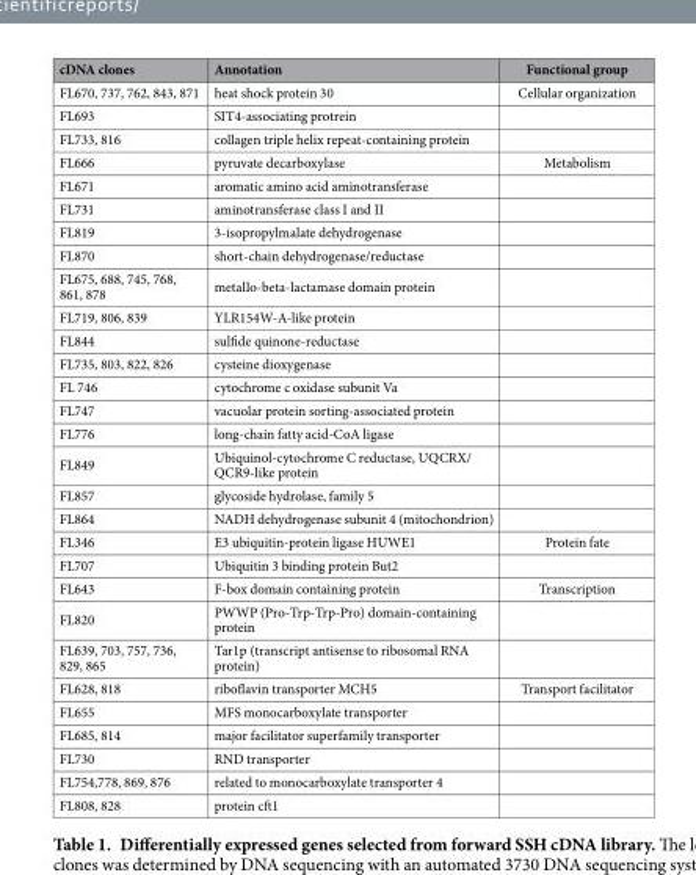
<table><thead><tr><td>cDNA clones</td><td>Annotation</td><td>Functional group</td></tr></thead><tbody><tr><td>FL670, 737, 762, 843, 871</td><td>heat shock protein 30</td><td>Cellular organization</td></tr><tr><td>FL693</td><td>SIT4-associating protrein</td><td></td></tr><tr><td>FL733, 816</td><td>collagen triple helix repeat-containing protein</td><td></td></tr><tr><td>FL666</td><td>pyruvate decarboxylase</td><td>Metabolism</td></tr><tr><td>FL671</td><td>aromatic amino acid aminotransferase</td><td></td></tr><tr><td>FL731</td><td>aminotransferase class I and II</td><td></td></tr><tr><td>FL819</td><td>3-isopropylmalate dehydrogenase</td><td></td></tr><tr><td>FL870</td><td>short-chain dehydrogenase/reductase</td><td></td></tr><tr><td>FL675, 688, 745, 768, 861, 878</td><td>metallo-beta-lactamase domain protein</td><td></td></tr><tr><td>FL719, 806, 839</td><td>YLR154W-A-like protein</td><td></td></tr><tr><td>FL844</td><td>sulfide quinone-reductase</td><td></td></tr><tr><td>FL735, 803, 822, 826</td><td>cysteine dioxygenase</td><td></td></tr><tr><td>FL 746</td><td>cytochrome c oxidase subunit Va</td><td></td></tr><tr><td>FL747</td><td>vacuolar protein sorting-associated protein</td><td></td></tr><tr><td>FL776</td><td>long-chain fatty acid-CoA ligase</td><td></td></tr><tr><td>FL849</td><td>Ubiquinol-cytochrome C reductase, UQCRX/ QCR9-like protein</td><td></td></tr><tr><td>FL857</td><td>glycoside hydrolase, family 5</td><td></td></tr><tr><td>FL864</td><td>NADH dehydrogenase subunit 4 (mitochondrion)</td><td></td></tr><tr><td>FL346</td><td>E3 ubiquitin-protein ligase HUWE1</td><td>Protein fate</td></tr><tr><td>FL707</td><td>Ubiquitin 3 binding protein But2</td><td></td></tr><tr><td>FL643</td><td>F-box domain containing protein</td><td>Transcription</td></tr><tr><td>FL820</td><td>PWWP (Pro-Trp-Trp-Pro) domain-containing protein</td><td></td></tr><tr><td>FL639, 703, 757, 736, 829, 865</td><td>Tar1p (transcript antisense to ribosomal RNA protein)</td><td></td></tr><tr><td>FL628, 818</td><td>riboflavin transporter MCH5</td><td>Transport facilitator</td></tr><tr><td>FL655</td><td>MFS monocarboxylate transporter</td><td></td></tr><tr><td>FL685, 814</td><td>major facilitator superfamily transporter</td><td></td></tr><tr><td>FL730</td><td>RND transporter</td><td></td></tr><tr><td>FL754,778, 869, 876</td><td>related to monocarboxylate transporter 4</td><td></td></tr><tr><td>FL808, 828</td><td>protein cft1</td><td></td></tr></tbody></table>